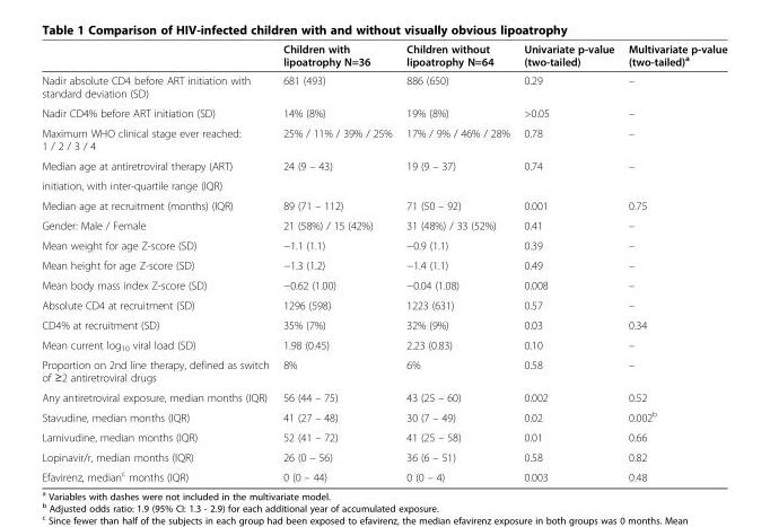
<table><thead><tr><td></td><td>Children with lipoatrophy N=36</td><td>Children without lipoatrophy N=64</td><td>Univariate p-value (two-tailed)</td><td>Multivariate p-value (two-tailed)<sup>a</sup></td></tr></thead><tbody><tr><td>Nadir absolute CD4 before ART initiation with standard deviation (SD)</td><td>681 (493)</td><td>886 (650)</td><td>0.29</td><td>–</td></tr><tr><td>Nadir CD4% before ART initiation (SD)</td><td>14% (8%)</td><td>19% (8%)</td><td>&gt;0.05</td><td>–</td></tr><tr><td>Maximum WHO clinical stage ever reached: 1 / 2 / 3 / 4</td><td>25% / 11% / 39% / 25%</td><td>17% / 9% / 46% / 28%</td><td>0.78</td><td>–</td></tr><tr><td>Median age at antiretroviral therapy (ART)</td><td rowspan="2">24 (9 – 43)</td><td rowspan="2">19 (9 – 37)</td><td rowspan="2">0.74</td><td rowspan="2">–</td></tr><tr><td>initiation, with inter-quartile range (IQR)</td></tr><tr><td>Median age at recruitment (months) (IQR)</td><td>89 (71 – 112)</td><td>71 (50 – 92)</td><td>0.001</td><td>0.75</td></tr><tr><td>Gender: Male / Female</td><td>21 (58%) / 15 (42%)</td><td>31 (48%) / 33 (52%)</td><td>0.41</td><td>–</td></tr><tr><td>Mean weight for age Z-score (SD)</td><td>−1.1 (1.1)</td><td>−0.9 (1.1)</td><td>0.39</td><td>–</td></tr><tr><td>Mean height for age Z-score (SD)</td><td>−1.3 (1.2)</td><td>−1.4 (1.1)</td><td>0.49</td><td>–</td></tr><tr><td>Mean body mass index Z-score (SD)</td><td>−0.62 (1.00)</td><td>−0.04 (1.08)</td><td>0.008</td><td>–</td></tr><tr><td>Absolute CD4 at recruitment (SD)</td><td>1296 (598)</td><td>1223 (631)</td><td>0.57</td><td>–</td></tr><tr><td>CD4% at recruitment (SD)</td><td>35% (7%)</td><td>32% (9%)</td><td>0.03</td><td>0.34</td></tr><tr><td>Mean current log<sub>10</sub> viral load (SD)</td><td>1.98 (0.45)</td><td>2.23 (0.83)</td><td>0.10</td><td>–</td></tr><tr><td>Proportion on 2nd line therapy, defined as switch of ≥2 antiretroviral drugs</td><td>8%</td><td>6%</td><td>0.58</td><td>–</td></tr><tr><td>Any antiretroviral exposure, median months (IQR)</td><td>56 (44 – 75)</td><td>43 (25 – 60)</td><td>0.002</td><td>0.52</td></tr><tr><td>Stavudine, median months (IQR)</td><td>41 (27 – 48)</td><td>30 (7 – 49)</td><td>0.02</td><td>0.002<sup>b</sup></td></tr><tr><td>Lamivudine, median months (IQR)</td><td>52 (41 – 72)</td><td>41 (25 – 58)</td><td>0.01</td><td>0.66</td></tr><tr><td>Lopinavir/r, median months (IQR)</td><td>26 (0 – 56)</td><td>36 (6 – 51)</td><td>0.58</td><td>0.82</td></tr><tr><td>Efavirenz, median<sup>c</sup> months (IQR)</td><td>0 (0 – 44)</td><td>0 (0 – 4)</td><td>0.003</td><td>0.48</td></tr></tbody></table>